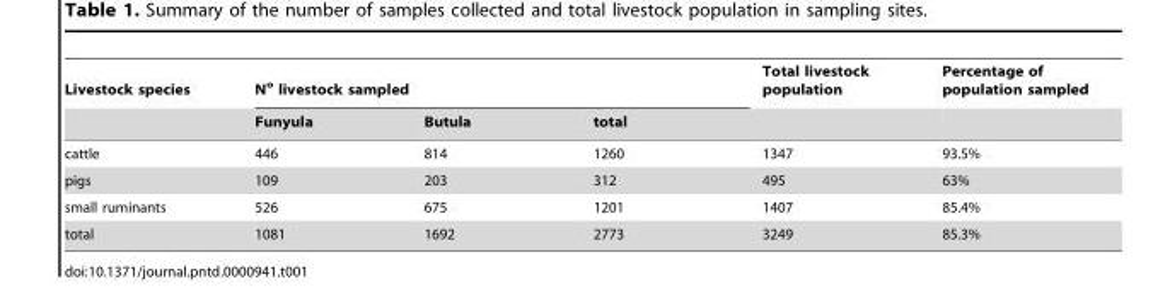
<table><thead><tr><td rowspan="2">Livestock species</td><td colspan="3">N<sup>o</sup> livestock sampled</td><td rowspan="2">Total livestock population</td><td rowspan="2">Percentage of population sampled</td></tr><tr><td>Funyula</td><td>Butula</td><td>total</td></tr></thead><tbody><tr><td>cattle</td><td>446</td><td>814</td><td>1260</td><td>1347</td><td>93.5%</td></tr><tr><td>pigs</td><td>109</td><td>203</td><td>312</td><td>495</td><td>63%</td></tr><tr><td>small ruminants</td><td>526</td><td>675</td><td>1201</td><td>1407</td><td>85.4%</td></tr><tr><td>total</td><td>1081</td><td>1692</td><td>2773</td><td>3249</td><td>85.3%</td></tr></tbody></table>